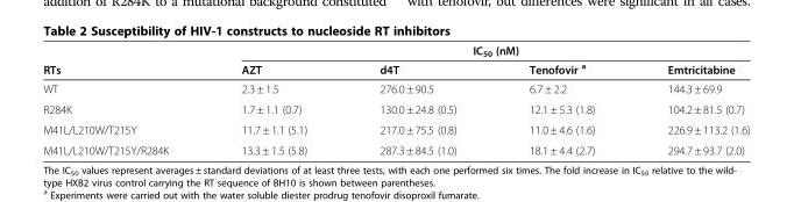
<table><thead><tr><td rowspan="2">RTs</td><td colspan="4">IC<sub>50</sub> (nM)</td></tr><tr><td>AZT</td><td>d4T</td><td>Tenofovir <sup>a</sup></td><td>Emtricitabine</td></tr></thead><tbody><tr><td>WT</td><td>2.3 ± 1.5</td><td>276.0 ± 90.5</td><td>6.7 ± 2.2</td><td>144.3 ± 69.9</td></tr><tr><td>R284K</td><td>1.7 ± 1.1 (0.7)</td><td>130.0 ± 24.8 (0.5)</td><td>12.1 ± 5.3 (1.8)</td><td>104.2 ± 81.5 (0.7)</td></tr><tr><td>M41L/L210W/T215Y</td><td>11.7 ± 1.1 (5.1)</td><td>217.0 ± 75.5 (0.8)</td><td>11.0 ± 4.6 (1.6)</td><td>226.9 ± 113.2 (1.6)</td></tr><tr><td>M41L/L210W/T215Y/R284K</td><td>13.3 ± 1.5 (5.8)</td><td>287.3 ± 84.5 (1.0)</td><td>18.1 ± 4.4 (2.7)</td><td>294.7 ± 93.7 (2.0)</td></tr></tbody></table>